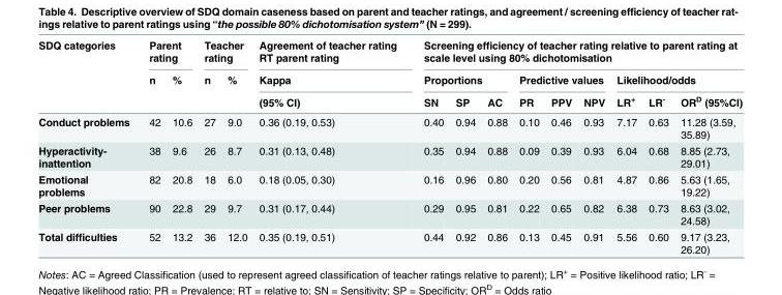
<table><thead><tr><td rowspan="3">SDQ categories</td><td colspan="2">Parent rating</td><td colspan="2">Teacher rating</td><td rowspan="3">Agreement of teacher rating RT parent rating Kappa (95% CI)</td><td colspan="9">Screening efficiency of teacher rating relative to parent rating at scale level using 80% dichotomisation</td></tr><tr><td rowspan="2">n</td><td rowspan="2">%</td><td rowspan="2">n</td><td rowspan="2">%</td><td colspan="3">Proportions</td><td colspan="3">Predictive values</td><td colspan="3">Likelihood/odds</td></tr><tr><td>SN</td><td>SP</td><td>AC</td><td>PR</td><td>PPV</td><td>NPV</td><td>LR<sup>+</sup></td><td>LR<sup>-</sup></td><td>OR<sup>D</sup> (95%CI)</td></tr></thead><tbody><tr><td>Conduct problems</td><td>42</td><td>10.6</td><td>27</td><td>9.0</td><td>0.36 (0.19, 0.53)</td><td>0.40</td><td>0.94</td><td>0.88</td><td>0.10</td><td>0.46</td><td>0.93</td><td>7.17</td><td>0.63</td><td>11.28 (3.59, 35.89)</td></tr><tr><td>Hyperactivity- inattention</td><td>38</td><td>9.6</td><td>26</td><td>8.7</td><td>0.31 (0.13, 0.48)</td><td>0.35</td><td>0.94</td><td>0.88</td><td>0.09</td><td>0.39</td><td>0.93</td><td>6.04</td><td>0.68</td><td>8.85 (2.73, 29.01)</td></tr><tr><td>Emotional problems</td><td>82</td><td>20.8</td><td>18</td><td>6.0</td><td>0.18 (0.05, 0.30)</td><td>0.16</td><td>0.96</td><td>0.80</td><td>0.20</td><td>0.56</td><td>0.81</td><td>4.87</td><td>0.86</td><td>5.63 (1.65, 19.22)</td></tr><tr><td>Peer problems</td><td>90</td><td>22.8</td><td>29</td><td>9.7</td><td>0.31 (0.17, 0.44)</td><td>0.29</td><td>0.95</td><td>0.81</td><td>0.22</td><td>0.65</td><td>0.82</td><td>6.38</td><td>0.73</td><td>8.63 (3.02, 24.58)</td></tr><tr><td>Total difficulties</td><td>52</td><td>13.2</td><td>36</td><td>12.0</td><td>0.35 (0.19, 0.51)</td><td>0.44</td><td>0.92</td><td>0.86</td><td>0.13</td><td>0.45</td><td>0.91</td><td>5.56</td><td>0.60</td><td>9.17 (3.23, 26.20)</td></tr></tbody></table>